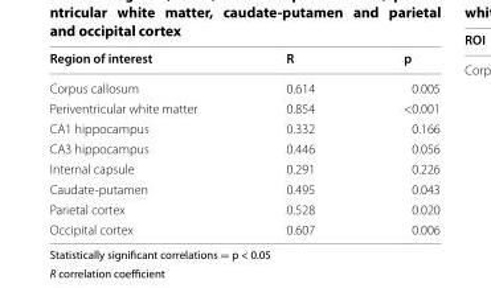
<table><thead><tr><td>Region of interest</td><td>R</td><td>p</td></tr></thead><tbody><tr><td>Corpus callosum</td><td>0.614</td><td>0.005</td></tr><tr><td>Periventricular white matter</td><td>0.854</td><td>&lt;0.001</td></tr><tr><td>CA1 hippocampus</td><td>0.332</td><td>0.166</td></tr><tr><td>CA3 hippocampus</td><td>0.446</td><td>0.056</td></tr><tr><td>Internal capsule</td><td>0.291</td><td>0.226</td></tr><tr><td>Caudate-putamen</td><td>0.495</td><td>0.043</td></tr><tr><td>Parietal cortex</td><td>0.528</td><td>0.020</td></tr><tr><td>Occipital cortex</td><td>0.607</td><td>0.006</td></tr></tbody></table>